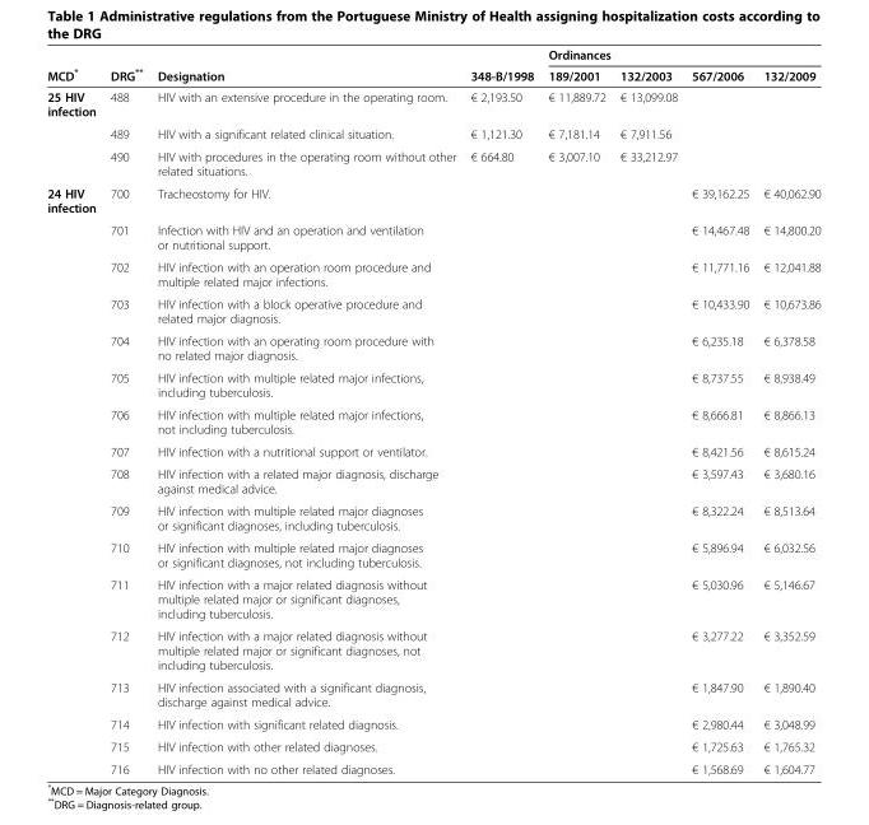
<table><thead><tr><td rowspan="2">MCD*</td><td rowspan="2">DRG**</td><td rowspan="2">Designation</td><td rowspan="2">348-B/1998</td><td colspan="4">Ordinances</td></tr><tr><td>189/2001</td><td>132/2003</td><td>567/2006</td><td>132/2009</td></tr></thead><tbody><tr><td rowspan="3">25 HIV infection</td><td>488</td><td>HIV with an extensive procedure in the operating room.</td><td>€ 2,193.50</td><td>€ 11,889.72</td><td>€ 13,099.08</td><td></td><td></td></tr><tr><td>489</td><td>HIV with a significant related clinical situation.</td><td>€ 1,121.30</td><td>€ 7,181.14</td><td>€ 7,911.56</td><td></td><td></td></tr><tr><td>490</td><td>HIV with procedures in the operating room without other related situations.</td><td>€ 664.80</td><td>€ 3,007.10</td><td>€ 33,212.97</td><td></td><td></td></tr><tr><td rowspan="17">24 HIV infection</td><td>700</td><td>Tracheostomy for HIV.</td><td></td><td></td><td></td><td>€ 39,162.25</td><td>€ 40,062.90</td></tr><tr><td>701</td><td>Infection with HIV and an operation and ventilation or nutritional support.</td><td></td><td></td><td></td><td>€ 14,467.48</td><td>€ 14,800.20</td></tr><tr><td>702</td><td>HIV infection with an operation room procedure and multiple related major infections.</td><td></td><td></td><td></td><td>€ 11,771.16</td><td>€ 12,041.88</td></tr><tr><td>703</td><td>HIV infection with a block operative procedure and related major diagnosis.</td><td></td><td></td><td></td><td>€ 10,433.90</td><td>€ 10,673.86</td></tr><tr><td>704</td><td>HIV infection with an operating room procedure with no related major diagnosis.</td><td></td><td></td><td></td><td>€ 6,235.18</td><td>€ 6,378.58</td></tr><tr><td>705</td><td>HIV infection with multiple related major infections, including tuberculosis.</td><td></td><td></td><td></td><td>€ 8,737.55</td><td>€ 8,938.49</td></tr><tr><td>706</td><td>HIV infection with multiple related major infections, not including tuberculosis.</td><td></td><td></td><td></td><td>€ 8,666.81</td><td>€ 8,866.13</td></tr><tr><td>707</td><td>HIV infection with a nutritional support or ventilator.</td><td></td><td></td><td></td><td>€ 8,421.56</td><td>€ 8,615.24</td></tr><tr><td>708</td><td>HIV infection with a related major diagnosis, discharge against medical advice.</td><td></td><td></td><td></td><td>€ 3,597.43</td><td>€ 3,680.16</td></tr><tr><td>709</td><td>HIV infection with multiple related major diagnoses or significant diagnoses, including tuberculosis.</td><td></td><td></td><td></td><td>€ 8,322.24</td><td>€ 8,513.64</td></tr><tr><td>710</td><td>HIV infection with multiple related major diagnoses or significant diagnoses, not including tuberculosis.</td><td></td><td></td><td></td><td>€ 5,896.94</td><td>€ 6,032.56</td></tr><tr><td>711</td><td>HIV infection with a major related diagnosis without multiple related major or significant diagnoses, including tuberculosis.</td><td></td><td></td><td></td><td>€ 5,030.96</td><td>€ 5,146.67</td></tr><tr><td>712</td><td>HIV infection with a major related diagnosis without multiple related major or significant diagnoses, not including tuberculosis.</td><td></td><td></td><td></td><td>€ 3,277.22</td><td>€ 3,352.59</td></tr><tr><td>713</td><td>HIV infection associated with a significant diagnosis, discharge against medical advice.</td><td></td><td></td><td></td><td>€ 1,847.90</td><td>€ 1,890.40</td></tr><tr><td>714</td><td>HIV infection with significant related diagnosis.</td><td></td><td></td><td></td><td>€ 2,980.44</td><td>€ 3,048.99</td></tr><tr><td>715</td><td>HIV infection with other related diagnoses.</td><td></td><td></td><td></td><td>€ 1,725.63</td><td>€ 1,765.32</td></tr><tr><td>716</td><td>HIV infection with no other related diagnoses.</td><td></td><td></td><td></td><td>€ 1,568.69</td><td>€ 1,604.77</td></tr></tbody></table>